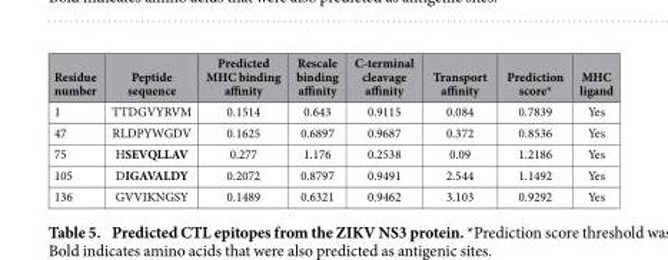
<table><thead><tr><td>Residue number</td><td>Peptide sequence</td><td>Predicted MHC binding affinity</td><td>Rescale binding affinity</td><td>C-terminal cleavage affinity</td><td>Transport affinity</td><td>Prediction score*</td><td>MHC ligand</td></tr></thead><tbody><tr><td>1</td><td>TTDGVYRVM</td><td>0.1514</td><td>0.643</td><td>0.9115</td><td>0.084</td><td>0.7839</td><td>Yes</td></tr><tr><td>47</td><td>RLDPYWGDV</td><td>0.1625</td><td>0.6897</td><td>0.9687</td><td>0.372</td><td>0.8536</td><td>Yes</td></tr><tr><td>75</td><td>HSEVQLLAV</td><td>0.277</td><td>1.176</td><td>0.2538</td><td>0.09</td><td>1.2186</td><td>Yes</td></tr><tr><td>105</td><td>DIGAVALDY</td><td>0.2072</td><td>0.8797</td><td>0.9491</td><td>2.544</td><td>1.1492</td><td>Yes</td></tr><tr><td>136</td><td>GVVIKNGSY</td><td>0.1489</td><td>0.6321</td><td>0.9462</td><td>3.103</td><td>0.9292</td><td>Yes</td></tr></tbody></table>